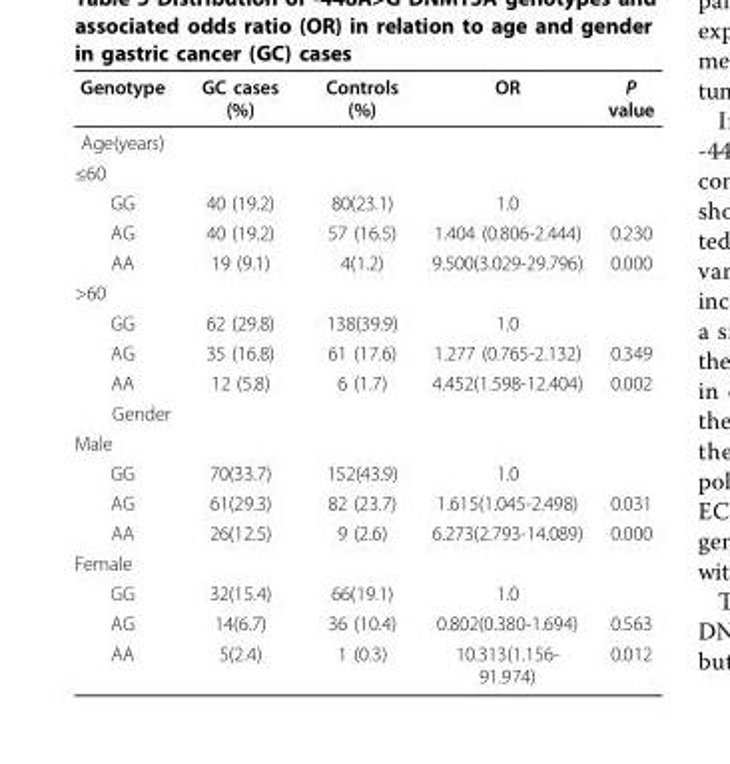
<table><thead><tr><td>Genotype</td><td>GC cases (%)</td><td>Controls (%)</td><td>OR</td><td>P value</td></tr></thead><tbody><tr><td colspan="5">Age(years)</td></tr><tr><td colspan="5">≤60</td></tr><tr><td>GG</td><td>40 (19.2)</td><td>80(23.1)</td><td>1.0</td><td></td></tr><tr><td>AG</td><td>40 (19.2)</td><td>57 (16.5)</td><td>1.404 (0.806-2.444)</td><td>0.230</td></tr><tr><td>AA</td><td>19 (9.1)</td><td>4(1.2)</td><td>9.500(3.029-29.796)</td><td>0.000</td></tr><tr><td colspan="5">&gt;60</td></tr><tr><td>GG</td><td>62 (29.8)</td><td>138(39.9)</td><td>1.0</td><td></td></tr><tr><td>AG</td><td>35 (16.8)</td><td>61 (17.6)</td><td>1.277 (0.765-2.132)</td><td>0.349</td></tr><tr><td>AA</td><td>12 (5.8)</td><td>6 (1.7)</td><td>4.452(1.598-12.404)</td><td>0.002</td></tr><tr><td colspan="5">Gender</td></tr><tr><td colspan="5">Male</td></tr><tr><td>GG</td><td>70(33.7)</td><td>152(43.9)</td><td>1.0</td><td></td></tr><tr><td>AG</td><td>61(29.3)</td><td>82 (23.7)</td><td>1.615(1.045-2.498)</td><td>0.031</td></tr><tr><td>AA</td><td>26(12.5)</td><td>9 (2.6)</td><td>6.273(2.793-14.089)</td><td>0.000</td></tr><tr><td colspan="5">Female</td></tr><tr><td>GG</td><td>32(15.4)</td><td>66(19.1)</td><td>1.0</td><td></td></tr><tr><td>AG</td><td>14(6.7)</td><td>36 (10.4)</td><td>0.802(0.380-1.694)</td><td>0.563</td></tr><tr><td>AA</td><td>5(2.4)</td><td>1 (0.3)</td><td>10.313(1.156- 91.974)</td><td>0.012</td></tr></tbody></table>